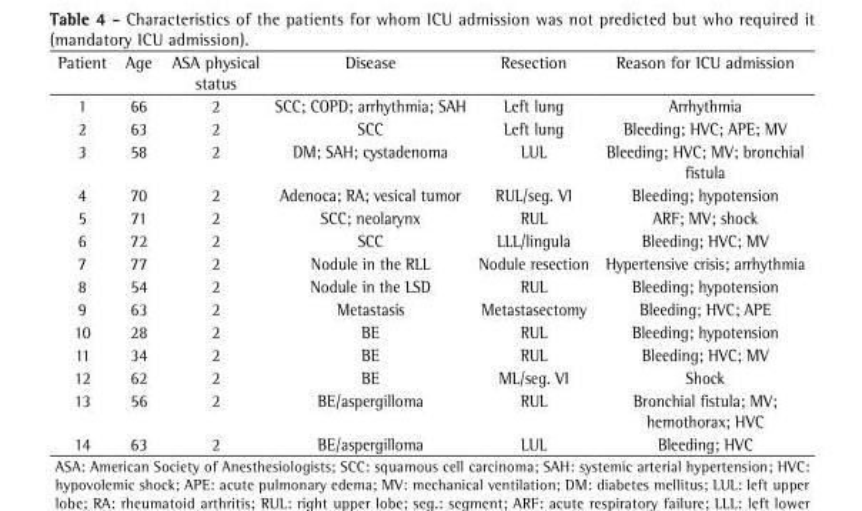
<table><thead><tr><td>Patient</td><td>Age</td><td>ASA physical status</td><td>Disease</td><td>Resection</td><td>Reason for ICU admission</td></tr></thead><tbody><tr><td>1</td><td>66</td><td>2</td><td>SCC; COPD; arrhythmia; SAH</td><td>Left lung</td><td>Arrhythmia</td></tr><tr><td>2</td><td>63</td><td>2</td><td>SCC</td><td>Left lung</td><td>Bleeding; HVC; APE; MV</td></tr><tr><td>3</td><td>58</td><td>2</td><td>DM; SAH; cystadenoma</td><td>LUL</td><td>Bleeding; HVC; MV; bronchial fistula</td></tr><tr><td>4</td><td>70</td><td>2</td><td>Adenoca; RA; vesical tumor</td><td>RUL/seg. VI</td><td>Bleeding; hypotension</td></tr><tr><td>5</td><td>71</td><td>2</td><td>SCC; neolarynx</td><td>RUL</td><td>ARF; MV; shock</td></tr><tr><td>6</td><td>72</td><td>2</td><td>SCC</td><td>LLL/lingula</td><td>Bleeding; HVC; MV</td></tr><tr><td>7</td><td>77</td><td>2</td><td>Nodule in the RLL</td><td>Nodule resection</td><td>Hypertensive crisis; arrhythmia</td></tr><tr><td>8</td><td>54</td><td>2</td><td>Nodule in the LSD</td><td>RUL</td><td>Bleeding; hypotension</td></tr><tr><td>9</td><td>63</td><td>2</td><td>Metastasis</td><td>Metastasectomy</td><td>Bleeding; HVC; APE</td></tr><tr><td>10</td><td>28</td><td>2</td><td>BE</td><td>RUL</td><td>Bleeding; hypotension</td></tr><tr><td>11</td><td>34</td><td>2</td><td>BE</td><td>RUL</td><td>Bleeding; HVC; MV</td></tr><tr><td>12</td><td>62</td><td>2</td><td>BE</td><td>ML/seg. VI</td><td>Shock</td></tr><tr><td>13</td><td>56</td><td>2</td><td>BE/aspergilloma</td><td>RUL</td><td>Bronchial fistula; MV; hemothorax; HVC</td></tr><tr><td>14</td><td>63</td><td>2</td><td>BE/aspergilloma</td><td>LUL</td><td>Bleeding; HVC</td></tr></tbody></table>